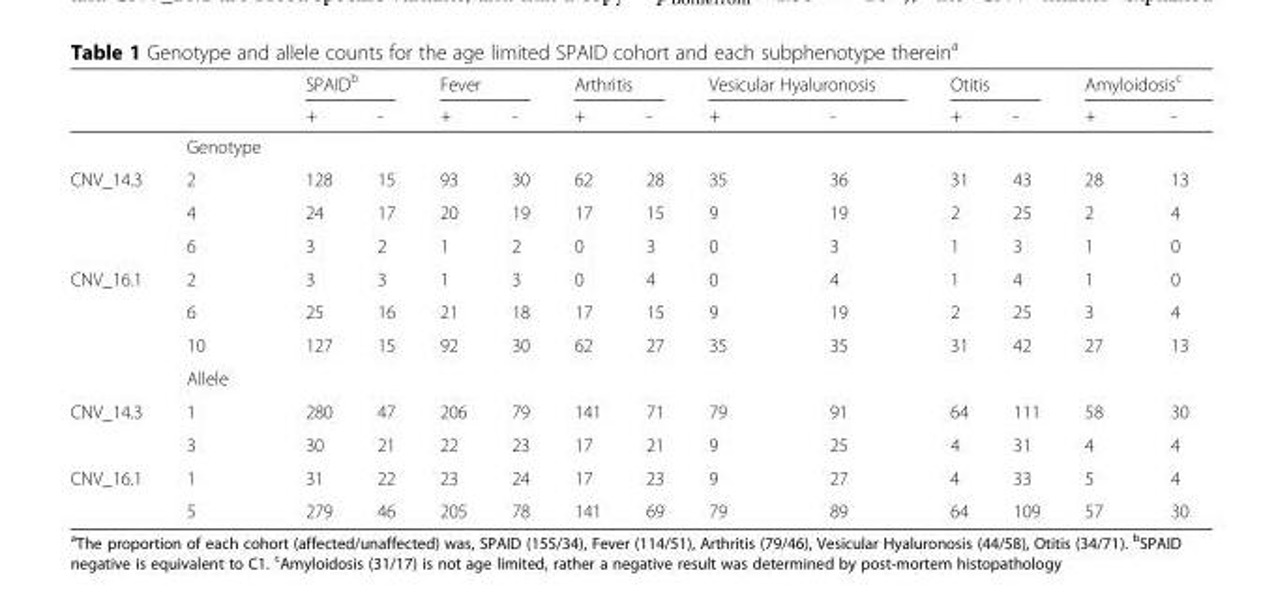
<table><thead><tr><td rowspan="2"></td><td rowspan="2"></td><td colspan="2">SPAID<sup>b</sup></td><td colspan="2">Fever</td><td colspan="2">Arthritis</td><td colspan="2">Vesicular Hyaluronosis</td><td colspan="2">Otitis</td><td colspan="2">Amyloidosis<sup>c</sup></td></tr><tr><td>+</td><td>-</td><td>+</td><td>-</td><td>+</td><td>-</td><td>+</td><td>-</td><td>+</td><td>-</td><td>+</td><td>-</td></tr></thead><tbody><tr><td></td><td>Genotype</td><td></td><td></td><td></td><td></td><td></td><td></td><td></td><td></td><td></td><td></td><td></td><td></td></tr><tr><td rowspan="3">CNV_14.3</td><td>2</td><td>128</td><td>15</td><td>93</td><td>30</td><td>62</td><td>28</td><td>35</td><td>36</td><td>31</td><td>43</td><td>28</td><td>13</td></tr><tr><td>4</td><td>24</td><td>17</td><td>20</td><td>19</td><td>17</td><td>15</td><td>9</td><td>19</td><td>2</td><td>25</td><td>2</td><td>4</td></tr><tr><td>6</td><td>3</td><td>2</td><td>1</td><td>2</td><td>0</td><td>3</td><td>0</td><td>3</td><td>1</td><td>3</td><td>1</td><td>0</td></tr><tr><td rowspan="4">CNV_16.1</td><td>2</td><td>3</td><td>3</td><td>1</td><td>3</td><td>0</td><td>4</td><td>0</td><td>4</td><td>1</td><td>4</td><td>1</td><td>0</td></tr><tr><td>6</td><td>25</td><td>16</td><td>21</td><td>18</td><td>17</td><td>15</td><td>9</td><td>19</td><td>2</td><td>25</td><td>3</td><td>4</td></tr><tr><td>10</td><td>127</td><td>15</td><td>92</td><td>30</td><td>62</td><td>27</td><td>35</td><td>35</td><td>31</td><td>42</td><td>27</td><td>13</td></tr><tr><td>Allele</td><td></td><td></td><td></td><td></td><td></td><td></td><td></td><td></td><td></td><td></td><td></td><td></td></tr><tr><td rowspan="2">CNV_14.3</td><td>1</td><td>280</td><td>47</td><td>206</td><td>79</td><td>141</td><td>71</td><td>79</td><td>91</td><td>64</td><td>111</td><td>58</td><td>30</td></tr><tr><td>3</td><td>30</td><td>21</td><td>22</td><td>23</td><td>17</td><td>21</td><td>9</td><td>25</td><td>4</td><td>31</td><td>4</td><td>4</td></tr><tr><td rowspan="2">CNV_16.1</td><td>1</td><td>31</td><td>22</td><td>23</td><td>24</td><td>17</td><td>23</td><td>9</td><td>27</td><td>4</td><td>33</td><td>5</td><td>4</td></tr><tr><td>5</td><td>279</td><td>46</td><td>205</td><td>78</td><td>141</td><td>69</td><td>79</td><td>89</td><td>64</td><td>109</td><td>57</td><td>30</td></tr></tbody></table>